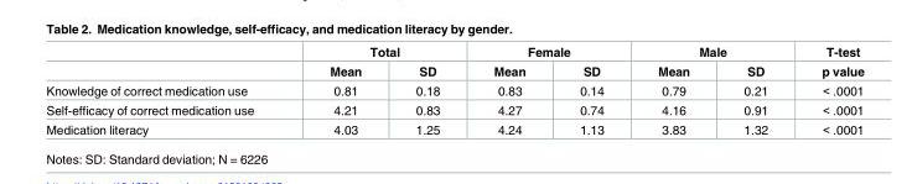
<table><thead><tr><td rowspan="2"></td><td colspan="2">Total</td><td colspan="2">Female</td><td colspan="2">Male</td><td rowspan="2">T-test p value</td></tr><tr><td>Mean</td><td>SD</td><td>Mean</td><td>SD</td><td>Mean</td><td>SD</td></tr></thead><tbody><tr><td>Knowledge of correct medication use</td><td>0.81</td><td>0.18</td><td>0.83</td><td>0.14</td><td>0.79</td><td>0.21</td><td>&lt; .0001</td></tr><tr><td>Self-efficacy of correct medication use</td><td>4.21</td><td>0.83</td><td>4.27</td><td>0.74</td><td>4.16</td><td>0.91</td><td>&lt; .0001</td></tr><tr><td>Medication literacy</td><td>4.03</td><td>1.25</td><td>4.24</td><td>1.13</td><td>3.83</td><td>1.32</td><td>&lt; .0001</td></tr></tbody></table>